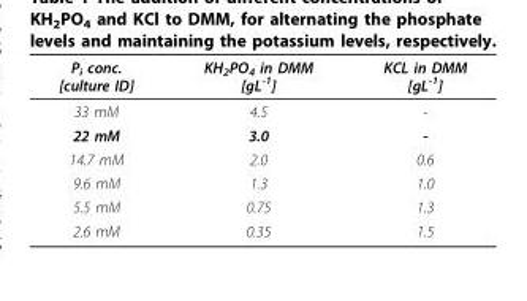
<table><thead><tr><td>P<sub>i</sub> conc. [culture ID]</td><td>KH<sub>2</sub>PO<sub>4</sub> in DMM [gL<sup>-1</sup>]</td><td>KCL in DMM [gL<sup>-1</sup>]</td></tr></thead><tbody><tr><td>33 mM</td><td>4.5</td><td>-</td></tr><tr><td>22 mM</td><td>3.0</td><td>-</td></tr><tr><td>14.7 mM</td><td>2.0</td><td>0.6</td></tr><tr><td>9.6 mM</td><td>1.3</td><td>1.0</td></tr><tr><td>5.5 mM</td><td>0.75</td><td>1.3</td></tr><tr><td>2.6 mM</td><td>0.35</td><td>1.5</td></tr></tbody></table>